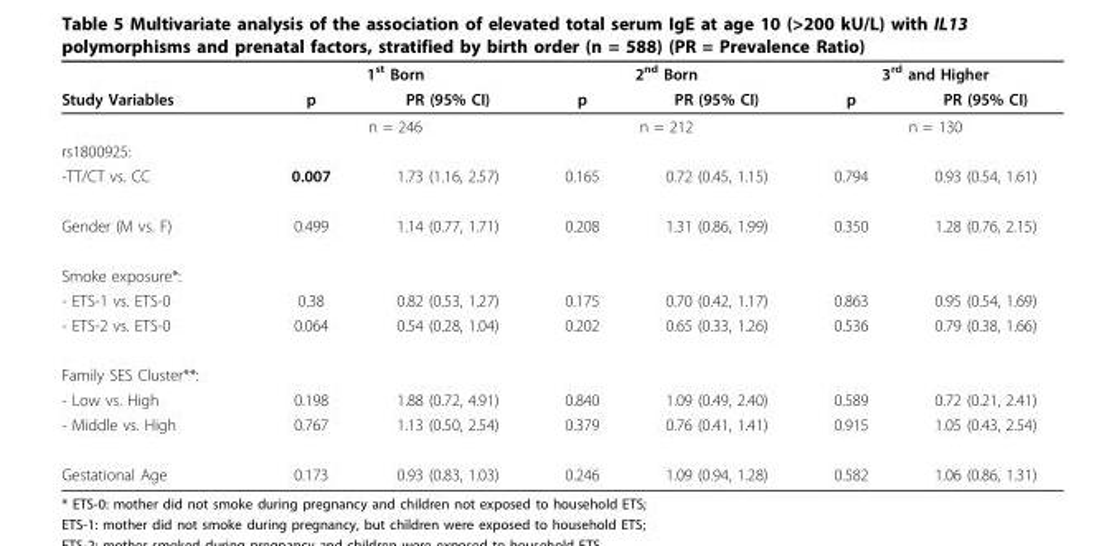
<table><thead><tr><td rowspan="2">Study Variables</td><td colspan="2">1<sup>st</sup> Born</td><td colspan="2">2<sup>nd</sup> Born</td><td colspan="2">3<sup>rd</sup> and Higher</td></tr><tr><td>p</td><td>PR (95% CI)</td><td>p</td><td>PR (95% CI)</td><td>p</td><td>PR (95% CI)</td></tr></thead><tbody><tr><td></td><td colspan="2">n = 246</td><td colspan="2">n = 212</td><td colspan="2">n = 130</td></tr><tr><td colspan="7">rs1800925:</td></tr><tr><td>-TT/CT vs. CC</td><td>0.007</td><td>1.73 (1.16, 2.57)</td><td>0.165</td><td>0.72 (0.45, 1.15)</td><td>0.794</td><td>0.93 (0.54, 1.61)</td></tr><tr><td>Gender (M vs. F)</td><td>0.499</td><td>1.14 (0.77, 1.71)</td><td>0.208</td><td>1.31 (0.86, 1.99)</td><td>0.350</td><td>1.28 (0.76, 2.15)</td></tr><tr><td colspan="7">Smoke exposure*:</td></tr><tr><td>- ETS-1 vs. ETS-0</td><td>0.38</td><td>0.82 (0.53, 1.27)</td><td>0.175</td><td>0.70 (0.42, 1.17)</td><td>0.863</td><td>0.95 (0.54, 1.69)</td></tr><tr><td>- ETS-2 vs. ETS-0</td><td>0.064</td><td>0.54 (0.28, 1.04)</td><td>0.202</td><td>0.65 (0.33, 1.26)</td><td>0.536</td><td>0.79 (0.38, 1.66)</td></tr><tr><td colspan="7">Family SES Cluster**:</td></tr><tr><td>- Low vs. High</td><td>0.198</td><td>1.88 (0.72, 4.91)</td><td>0.840</td><td>1.09 (0.49, 2.40)</td><td>0.589</td><td>0.72 (0.21, 2.41)</td></tr><tr><td>- Middle vs. High</td><td>0.767</td><td>1.13 (0.50, 2.54)</td><td>0.379</td><td>0.76 (0.41, 1.41)</td><td>0.915</td><td>1.05 (0.43, 2.54)</td></tr><tr><td>Gestational Age</td><td>0.173</td><td>0.93 (0.83, 1.03)</td><td>0.246</td><td>1.09 (0.94, 1.28)</td><td>0.582</td><td>1.06 (0.86, 1.31)</td></tr></tbody></table>